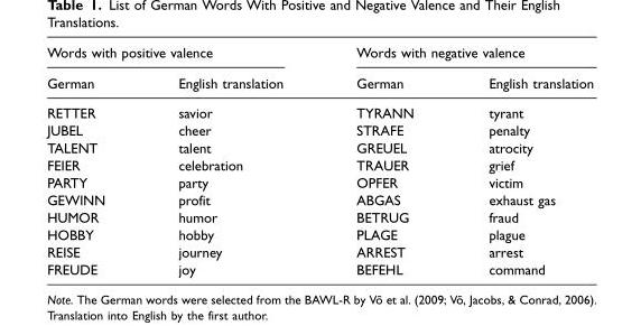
<table><thead><tr><td colspan="2">Words with positive valence</td><td colspan="2">Words with negative valence</td></tr><tr><td>German</td><td>English translation</td><td>German</td><td>English translation</td></tr></thead><tbody><tr><td>RETTER</td><td>savior</td><td>TYRANN</td><td>tyrant</td></tr><tr><td>JUBEL</td><td>cheer</td><td>STRAFE</td><td>penalty</td></tr><tr><td>TALENT</td><td>talent</td><td>GREUEL</td><td>atrocity</td></tr><tr><td>FEIER</td><td>celebration</td><td>TRAUER</td><td>grief</td></tr><tr><td>PARTY</td><td>party</td><td>OPFER</td><td>victim</td></tr><tr><td>GEWINN</td><td>profit</td><td>ABGAS</td><td>exhaust gas</td></tr><tr><td>HUMOR</td><td>humor</td><td>BETRUG</td><td>fraud</td></tr><tr><td>HOBBY</td><td>hobby</td><td>PLAGE</td><td>plague</td></tr><tr><td>REISE</td><td>journey</td><td>ARREST</td><td>arrest</td></tr><tr><td>FREUDE</td><td>joy</td><td>BEFEHL</td><td>command</td></tr></tbody></table>